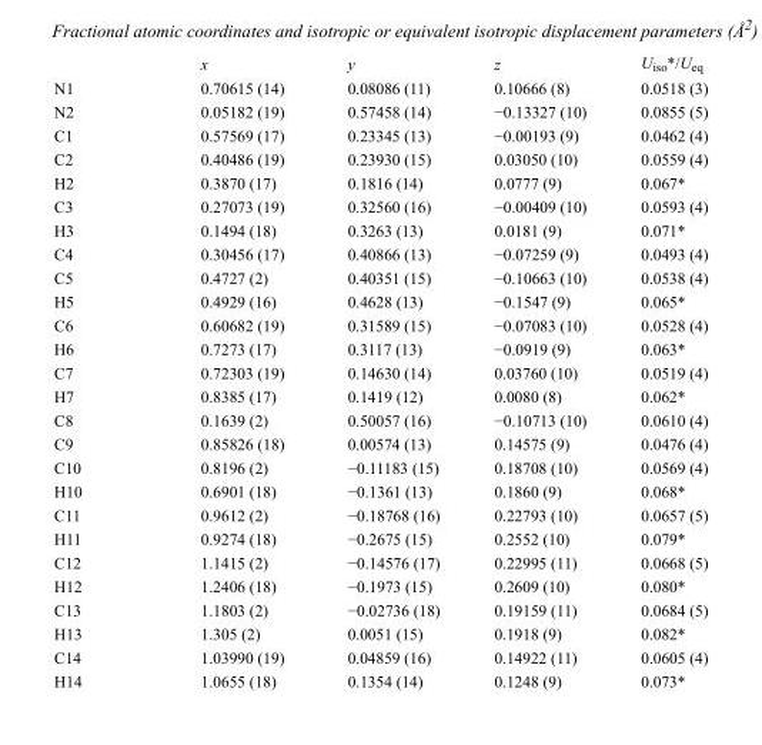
<table><thead><tr><td></td><td>x</td><td>y</td><td>z</td><td>U<sub>iso</sub>*/U<sub>eq</sub></td></tr></thead><tbody><tr><td>N1</td><td>0.70615 (14)</td><td>0.08086 (11)</td><td>0.10666 (8)</td><td>0.0518 (3)</td></tr><tr><td>N2</td><td>0.05182 (19)</td><td>0.57458 (14)</td><td>−0.13327 (10)</td><td>0.0855 (5)</td></tr><tr><td>C1</td><td>0.57569 (17)</td><td>0.23345 (13)</td><td>−0.00193 (9)</td><td>0.0462 (4)</td></tr><tr><td>C2</td><td>0.40486 (19)</td><td>0.23930 (15)</td><td>0.03050 (10)</td><td>0.0559 (4)</td></tr><tr><td>H2</td><td>0.3870 (17)</td><td>0.1816 (14)</td><td>0.0777 (9)</td><td>0.067*</td></tr><tr><td>C3</td><td>0.27073 (19)</td><td>0.32560 (16)</td><td>−0.00409 (10)</td><td>0.0593 (4)</td></tr><tr><td>H3</td><td>0.1494 (18)</td><td>0.3263 (13)</td><td>0.0181 (9)</td><td>0.071*</td></tr><tr><td>C4</td><td>0.30456 (17)</td><td>0.40866 (13)</td><td>−0.07259 (9)</td><td>0.0493 (4)</td></tr><tr><td>C5</td><td>0.4727 (2)</td><td>0.40351 (15)</td><td>−0.10663 (10)</td><td>0.0538 (4)</td></tr><tr><td>H5</td><td>0.4929 (16)</td><td>0.4628 (13)</td><td>−0.1547 (9)</td><td>0.065*</td></tr><tr><td>C6</td><td>0.60682 (19)</td><td>0.31589 (15)</td><td>−0.07083 (10)</td><td>0.0528 (4)</td></tr><tr><td>H6</td><td>0.7273 (17)</td><td>0.3117 (13)</td><td>−0.0919 (9)</td><td>0.063*</td></tr><tr><td>C7</td><td>0.72303 (19)</td><td>0.14630 (14)</td><td>0.03760 (10)</td><td>0.0519 (4)</td></tr><tr><td>H7</td><td>0.8385 (17)</td><td>0.1419 (12)</td><td>0.0080 (8)</td><td>0.062*</td></tr><tr><td>C8</td><td>0.1639 (2)</td><td>0.50057 (16)</td><td>−0.10713 (10)</td><td>0.0610 (4)</td></tr><tr><td>C9</td><td>0.85826 (18)</td><td>0.00574 (13)</td><td>0.14575 (9)</td><td>0.0476 (4)</td></tr><tr><td>C10</td><td>0.8196 (2)</td><td>−0.11183 (15)</td><td>0.18708 (10)</td><td>0.0569 (4)</td></tr><tr><td>H10</td><td>0.6901 (18)</td><td>−0.1361 (13)</td><td>0.1860 (9)</td><td>0.068*</td></tr><tr><td>C11</td><td>0.9612 (2)</td><td>−0.18768 (16)</td><td>0.22793 (10)</td><td>0.0657 (5)</td></tr><tr><td>H11</td><td>0.9274 (18)</td><td>−0.2675 (15)</td><td>0.2552 (10)</td><td>0.079*</td></tr><tr><td>C12</td><td>1.1415 (2)</td><td>−0.14576 (17)</td><td>0.22995 (11)</td><td>0.0668 (5)</td></tr><tr><td>H12</td><td>1.2406 (18)</td><td>−0.1973 (15)</td><td>0.2609 (10)</td><td>0.080*</td></tr><tr><td>C13</td><td>1.1803 (2)</td><td>−0.02736 (18)</td><td>0.19159 (11)</td><td>0.0684 (5)</td></tr><tr><td>H13</td><td>1.305 (2)</td><td>0.0051 (15)</td><td>0.1918 (9)</td><td>0.082*</td></tr><tr><td>C14</td><td>1.03990 (19)</td><td>0.04859 (16)</td><td>0.14922 (11)</td><td>0.0605 (4)</td></tr><tr><td>H14</td><td>1.0655 (18)</td><td>0.1354 (14)</td><td>0.1248 (9)</td><td>0.073*</td></tr></tbody></table>